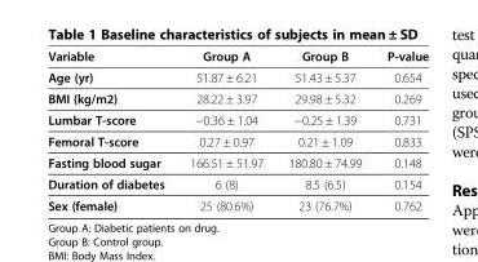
<table><thead><tr><td>Variable</td><td>Group A</td><td>Group B</td><td>P-value</td></tr></thead><tbody><tr><td>Age (yr)</td><td>51.87 ± 6.21</td><td>51.43 ± 5.37</td><td>0.654</td></tr><tr><td>BMI (kg/m2)</td><td>28.22 ± 3.97</td><td>29.98 ± 5.32</td><td>0.269</td></tr><tr><td>Lumbar T-score</td><td>−0.36 ± 1.04</td><td>−0.25 ± 1.39</td><td>0.731</td></tr><tr><td>Femoral T-score</td><td>0.27 ± 0.97</td><td>0.21 ± 1.09</td><td>0.833</td></tr><tr><td>Fasting blood sugar</td><td>166.51 ± 51.97</td><td>180.80 ± 74.99</td><td>0.148</td></tr><tr><td>Duration of diabetes</td><td>6 (8)</td><td>8.5 (6.5)</td><td>0.154</td></tr><tr><td>Sex (female)</td><td>25 (80.6%)</td><td>23 (76.7%)</td><td>0.762</td></tr></tbody></table>